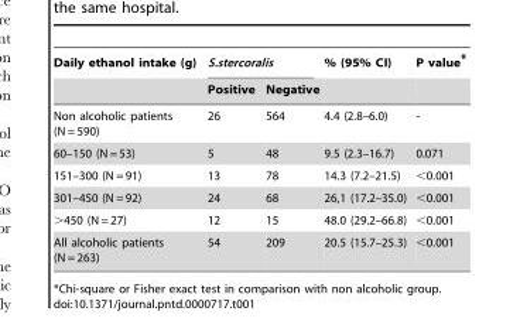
<table><thead><tr><td rowspan="2">Daily ethanol intake (g)</td><td colspan="2">S.stercoralis</td><td rowspan="2">% (95% CI)</td><td rowspan="2">P value*</td></tr><tr><td>Positive</td><td>Negative</td></tr></thead><tbody><tr><td>Non alcoholic patients (N = 590)</td><td>26</td><td>564</td><td>4.4 (2.8–6.0)</td><td>-</td></tr><tr><td>60–150 (N = 53)</td><td>5</td><td>48</td><td>9.5 (2.3–16.7)</td><td>0.071</td></tr><tr><td>151–300 (N = 91)</td><td>13</td><td>78</td><td>14.3 (7.2–21.5)</td><td>&lt;0.001</td></tr><tr><td>301–450 (N = 92)</td><td>24</td><td>68</td><td>26,1 (17.2–35.0)</td><td>&lt;0.001</td></tr><tr><td>&gt;450 (N = 27)</td><td>12</td><td>15</td><td>48.0 (29.2–66.8)</td><td>&lt;0.001</td></tr><tr><td>All alcoholic patients (N = 263)</td><td>54</td><td>209</td><td>20.5 (15.7–25.3)</td><td>&lt;0.001</td></tr></tbody></table>